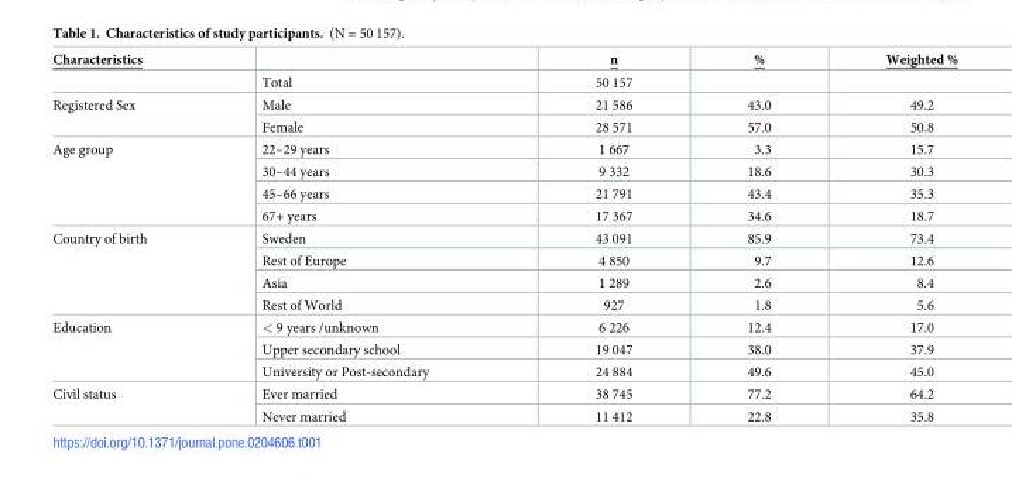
<table><thead><tr><td>Characteristics</td><td></td><td>n</td><td>%</td><td>Weighted %</td></tr></thead><tbody><tr><td></td><td>Total</td><td>50 157</td><td></td><td></td></tr><tr><td rowspan="2">Registered Sex</td><td>Male</td><td>21 586</td><td>43.0</td><td>49.2</td></tr><tr><td>Female</td><td>28 571</td><td>57.0</td><td>50.8</td></tr><tr><td rowspan="4">Age group</td><td>22–29 years</td><td>1 667</td><td>3.3</td><td>15.7</td></tr><tr><td>30–44 years</td><td>9 332</td><td>18.6</td><td>30.3</td></tr><tr><td>45–66 years</td><td>21 791</td><td>43.4</td><td>35.3</td></tr><tr><td>67+ years</td><td>17 367</td><td>34.6</td><td>18.7</td></tr><tr><td rowspan="4">Country of birth</td><td>Sweden</td><td>43 091</td><td>85.9</td><td>73.4</td></tr><tr><td>Rest of Europe</td><td>4 850</td><td>9.7</td><td>12.6</td></tr><tr><td>Asia</td><td>1 289</td><td>2.6</td><td>8.4</td></tr><tr><td>Rest of World</td><td>927</td><td>1.8</td><td>5.6</td></tr><tr><td rowspan="3">Education</td><td>&lt; 9 years /unknown</td><td>6 226</td><td>12.4</td><td>17.0</td></tr><tr><td>Upper secondary school</td><td>19 047</td><td>38.0</td><td>37.9</td></tr><tr><td>University or Post-secondary</td><td>24 884</td><td>49.6</td><td>45.0</td></tr><tr><td rowspan="2">Civil status</td><td>Ever married</td><td>38 745</td><td>77.2</td><td>64.2</td></tr><tr><td>Never married</td><td>11 412</td><td>22.8</td><td>35.8</td></tr></tbody></table>